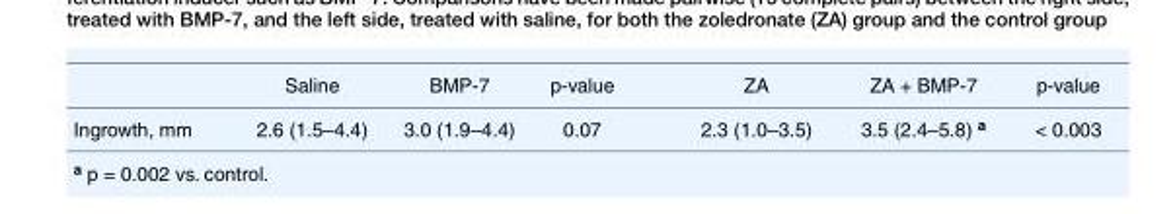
<table><thead><tr><td></td><td>Saline</td><td>BMP-7</td><td>p-value</td><td>ZA</td><td>ZA + BMP-7</td><td>p-value</td></tr></thead><tbody><tr><td>Ingrowth, mm</td><td>2.6 (1.5–4.4)</td><td>3.0 (1.9–4.4)</td><td>0.07</td><td>2.3 (1.0–3.5)</td><td>3.5 (2.4–5.8) <sup>a</sup></td><td>&lt; 0.003</td></tr></tbody></table>